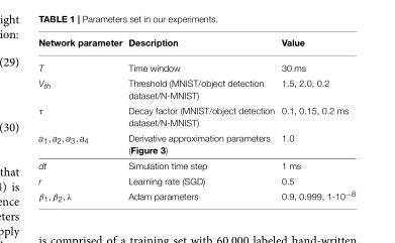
<table><thead><tr><td>Network parameter</td><td>Description</td><td>Value</td></tr></thead><tbody><tr><td>T</td><td>Time window</td><td>30 ms</td></tr><tr><td>V<sub>th</sub></td><td>Threshold (MNIST/object detection dataset/N-MNIST)</td><td>1.5, 2.0, 0.2</td></tr><tr><td>τ</td><td>Decay factor (MNIST/object detection dataset/N-MNIST)</td><td>0.1, 0.15, 0.2 ms</td></tr><tr><td>a<sub>1</sub>, a<sub>2</sub>, a<sub>3</sub>, a<sub>4</sub></td><td>Derivative approximation parameters (Figure 3)</td><td>1.0</td></tr><tr><td>dt</td><td>Simulation time step</td><td>1 ms</td></tr><tr><td>r</td><td>Learning rate (SGD)</td><td>0.5</td></tr><tr><td>β<sub>1</sub>, β<sub>2</sub>, λ</td><td>Adam parameters</td><td>0.9, 0.999, 1-10<sup>−8</sup></td></tr></tbody></table>